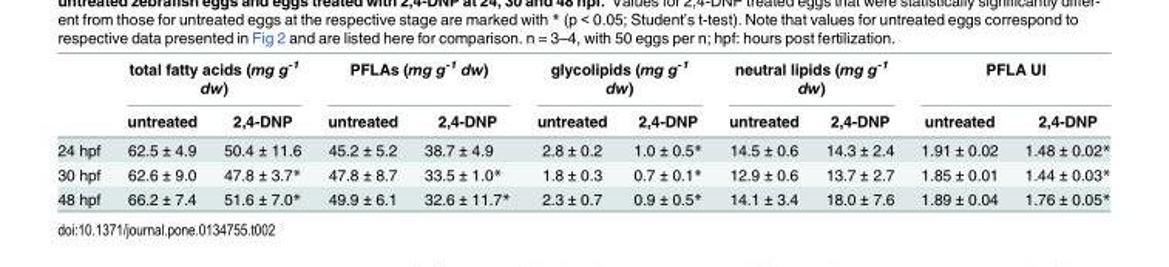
<table><thead><tr><td rowspan="2"></td><td colspan="2">total fatty acids (mg g<sup>-1</sup> dw)</td><td colspan="2">PFLAs (mg g<sup>-1</sup> dw)</td><td colspan="2">glycolipids (mg g<sup>-1</sup> dw)</td><td colspan="2">neutral lipids (mg g<sup>-1</sup> dw)</td><td colspan="2">PFLA UI</td></tr><tr><td>untreated</td><td>2,4-DNP</td><td>untreated</td><td>2,4-DNP</td><td>untreated</td><td>2,4-DNP</td><td>untreated</td><td>2,4-DNP</td><td>untreated</td><td>2,4-DNP</td></tr></thead><tbody><tr><td>24 hpf</td><td>62.5 ± 4.9</td><td>50.4 ± 11.6</td><td>45.2 ± 5.2</td><td>38.7 ± 4.9</td><td>2.8 ± 0.2</td><td>1.0 ± 0.5*</td><td>14.5 ± 0.6</td><td>14.3 ± 2.4</td><td>1.91 ± 0.02</td><td>1.48 ± 0.02*</td></tr><tr><td>30 hpf</td><td>62.6 ± 9.0</td><td>47.8 ± 3.7*</td><td>47.8 ± 8.7</td><td>33.5 ± 1.0*</td><td>1.8 ± 0.3</td><td>0.7 ± 0.1*</td><td>12.9 ± 0.6</td><td>13.7 ± 2.7</td><td>1.85 ± 0.01</td><td>1.44 ± 0.03*</td></tr><tr><td>48 hpf</td><td>66.2 ± 7.4</td><td>51.6 ± 7.0*</td><td>49.9 ± 6.1</td><td>32.6 ± 11.7*</td><td>2.3 ± 0.7</td><td>0.9 ± 0.5*</td><td>14.1 ± 3.4</td><td>18.0 ± 7.6</td><td>1.89 ± 0.04</td><td>1.76 ± 0.05*</td></tr></tbody></table>